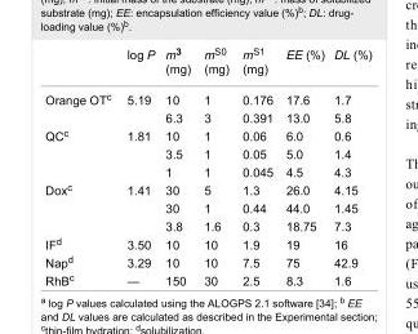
<table><thead><tr><td></td><td>log P</td><td>m<sup>3</sup> (mg)</td><td>m<sup>S0</sup> (mg)</td><td>m<sup>S1</sup> (mg)</td><td>EE (%)</td><td>DL (%)</td></tr></thead><tbody><tr><td rowspan="2">Orange OT<sup>c</sup></td><td rowspan="2">5.19</td><td>10</td><td>1</td><td>0.176</td><td>17.6</td><td>1.7</td></tr><tr><td>6.3</td><td>3</td><td>0.391</td><td>13.0</td><td>5.8</td></tr><tr><td rowspan="3">QC<sup>c</sup></td><td rowspan="3">1.81</td><td>10</td><td>1</td><td>0.06</td><td>6.0</td><td>0.6</td></tr><tr><td>3.5</td><td>1</td><td>0.05</td><td>5.0</td><td>1.4</td></tr><tr><td>1</td><td>1</td><td>0.045</td><td>4.5</td><td>4.3</td></tr><tr><td rowspan="3">Dox<sup>c</sup></td><td rowspan="3">1.41</td><td>30</td><td>5</td><td>1.3</td><td>26.0</td><td>4.15</td></tr><tr><td>30</td><td>1</td><td>0.44</td><td>44.0</td><td>1.45</td></tr><tr><td>3.8</td><td>1.6</td><td>0.3</td><td>18.75</td><td>7.3</td></tr><tr><td>IF<sup>d</sup></td><td>3.50</td><td>10</td><td>10</td><td>1.9</td><td>19</td><td>16</td></tr><tr><td>Nap<sup>d</sup></td><td>3.29</td><td>10</td><td>10</td><td>7.5</td><td>75</td><td>42.9</td></tr><tr><td>RhB<sup>c</sup></td><td>—</td><td>150</td><td>30</td><td>2.5</td><td>8.3</td><td>1.6</td></tr></tbody></table>